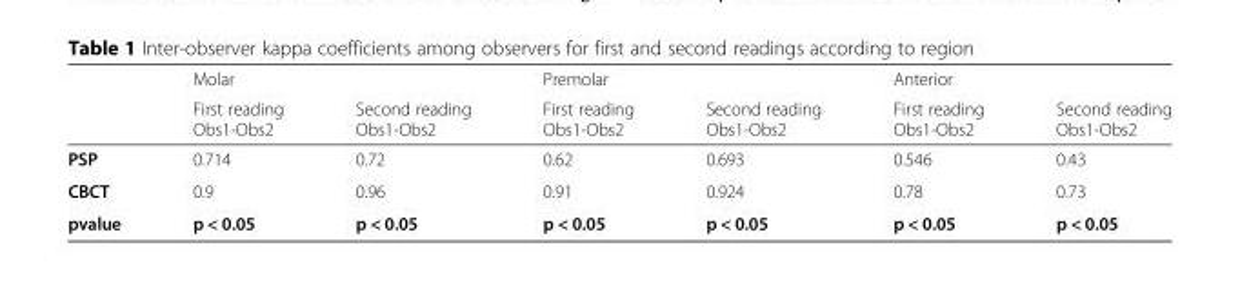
<table><thead><tr><td rowspan="2"></td><td colspan="2">Molar</td><td colspan="2">Premolar</td><td colspan="2">Anterior</td></tr><tr><td>First reading Obs1-Obs2</td><td>Second reading Obs1-Obs2</td><td>First reading Obs1-Obs2</td><td>Second reading Obs1-Obs2</td><td>First reading Obs1-Obs2</td><td>Second reading Obs1-Obs2</td></tr></thead><tbody><tr><td>PSP</td><td>0.714</td><td>0.72</td><td>0.62</td><td>0.693</td><td>0.546</td><td>0.43</td></tr><tr><td>CBCT</td><td>0.9</td><td>0.96</td><td>0.91</td><td>0.924</td><td>0.78</td><td>0.73</td></tr><tr><td>pvalue</td><td>p &lt; 0.05</td><td>p &lt; 0.05</td><td>p &lt; 0.05</td><td>p &lt; 0.05</td><td>p &lt; 0.05</td><td>p &lt; 0.05</td></tr></tbody></table>